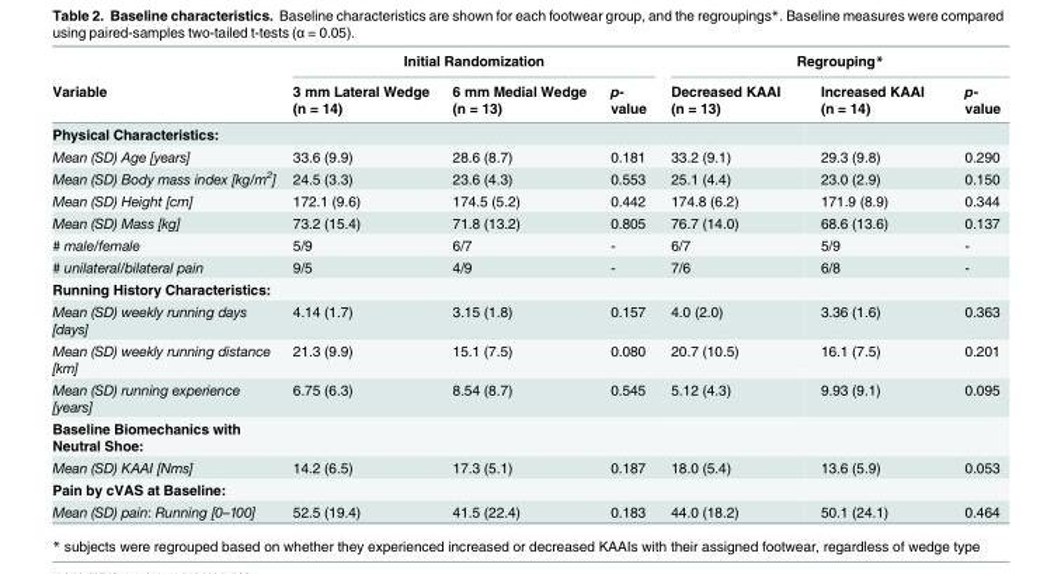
<table><thead><tr><td rowspan="2">Variable</td><td colspan="3">Initial Randomization</td><td colspan="3">Regrouping*</td></tr><tr><td>3 mm Lateral Wedge (n = 14)</td><td>6 mm Medial Wedge (n = 13)</td><td>p- value</td><td>Decreased KAAI (n = 13)</td><td>Increased KAAI (n = 14)</td><td>p- value</td></tr></thead><tbody><tr><td colspan="7">Physical Characteristics:</td></tr><tr><td>Mean (SD) Age [years]</td><td>33.6 (9.9)</td><td>28.6 (8.7)</td><td>0.181</td><td>33.2 (9.1)</td><td>29.3 (9.8)</td><td>0.290</td></tr><tr><td>Mean (SD) Body mass index [kg/m<sup>2</sup>]</td><td>24.5 (3.3)</td><td>23.6 (4.3)</td><td>0.553</td><td>25.1 (4.4)</td><td>23.0 (2.9)</td><td>0.150</td></tr><tr><td>Mean (SD) Height [cm]</td><td>172.1 (9.6)</td><td>174.5 (5.2)</td><td>0.442</td><td>174.8 (6.2)</td><td>171.9 (8.9)</td><td>0.344</td></tr><tr><td>Mean (SD) Mass [kg]</td><td>73.2 (15.4)</td><td>71.8 (13.2)</td><td>0.805</td><td>76.7 (14.0)</td><td>68.6 (13.6)</td><td>0.137</td></tr><tr><td># male/female</td><td>5/9</td><td>6/7</td><td>-</td><td>6/7</td><td>5/9</td><td>-</td></tr><tr><td># unilateral/bilateral pain</td><td>9/5</td><td>4/9</td><td>-</td><td>7/6</td><td>6/8</td><td>-</td></tr><tr><td colspan="7">Running History Characteristics:</td></tr><tr><td>Mean (SD) weekly running days [days]</td><td>4.14 (1.7)</td><td>3.15 (1.8)</td><td>0.157</td><td>4.0 (2.0)</td><td>3.36 (1.6)</td><td>0.363</td></tr><tr><td>Mean (SD) weekly running distance [km]</td><td>21.3 (9.9)</td><td>15.1 (7.5)</td><td>0.080</td><td>20.7 (10.5)</td><td>16.1 (7.5)</td><td>0.201</td></tr><tr><td>Mean (SD) running experience [years]</td><td>6.75 (6.3)</td><td>8.54 (8.7)</td><td>0.545</td><td>5.12 (4.3)</td><td>9.93 (9.1)</td><td>0.095</td></tr><tr><td colspan="7">Baseline Biomechanics with Neutral Shoe:</td></tr><tr><td>Mean (SD) KAAI [Nms]</td><td>14.2 (6.5)</td><td>17.3 (5.1)</td><td>0.187</td><td>18.0 (5.4)</td><td>13.6 (5.9)</td><td>0.053</td></tr><tr><td colspan="7">Pain by cVAS at Baseline:</td></tr><tr><td>Mean (SD) pain: Running [0–100]</td><td>52.5 (19.4)</td><td>41.5 (22.4)</td><td>0.183</td><td>44.0 (18.2)</td><td>50.1 (24.1)</td><td>0.464</td></tr></tbody></table>